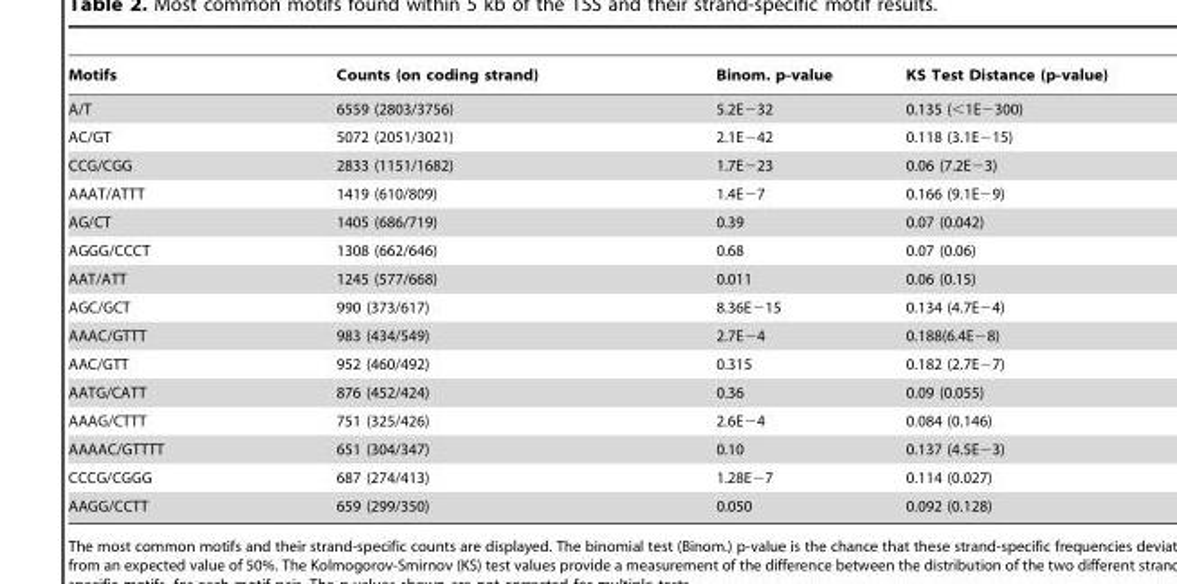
<table><thead><tr><td>Motifs</td><td>Counts (on coding strand)</td><td>Binom. p-value</td><td>KS Test Distance (p-value)</td></tr></thead><tbody><tr><td>A/T</td><td>6559 (2803/3756)</td><td>5.2E−32</td><td>0.135 (&lt;1E−300)</td></tr><tr><td>AC/GT</td><td>5072 (2051/3021)</td><td>2.1E−42</td><td>0.118 (3.1E−15)</td></tr><tr><td>CCG/CGG</td><td>2833 (1151/1682)</td><td>1.7E−23</td><td>0.06 (7.2E−3)</td></tr><tr><td>AAAT/ATTT</td><td>1419 (610/809)</td><td>1.4E−7</td><td>0.166 (9.1E−9)</td></tr><tr><td>AG/CT</td><td>1405 (686/719)</td><td>0.39</td><td>0.07 (0.042)</td></tr><tr><td>AGGG/CCCT</td><td>1308 (662/646)</td><td>0.68</td><td>0.07 (0.06)</td></tr><tr><td>AAT/ATT</td><td>1245 (577/668)</td><td>0.011</td><td>0.06 (0.15)</td></tr><tr><td>AGC/GCT</td><td>990 (373/617)</td><td>8.36E−15</td><td>0.134 (4.7E−4)</td></tr><tr><td>AAAC/GTTT</td><td>983 (434/549)</td><td>2.7E−4</td><td>0.188(6.4E−8)</td></tr><tr><td>AAC/GTT</td><td>952 (460/492)</td><td>0.315</td><td>0.182 (2.7E−7)</td></tr><tr><td>AATG/CATT</td><td>876 (452/424)</td><td>0.36</td><td>0.09 (0.055)</td></tr><tr><td>AAAG/CTTT</td><td>751 (325/426)</td><td>2.6E−4</td><td>0.084 (0.146)</td></tr><tr><td>AAAAC/GTTTT</td><td>651 (304/347)</td><td>0.10</td><td>0.137 (4.5E−3)</td></tr><tr><td>CCCG/CGGG</td><td>687 (274/413)</td><td>1.28E−7</td><td>0.114 (0.027)</td></tr><tr><td>AAGG/CCTT</td><td>659 (299/350)</td><td>0.050</td><td>0.092 (0.128)</td></tr></tbody></table>